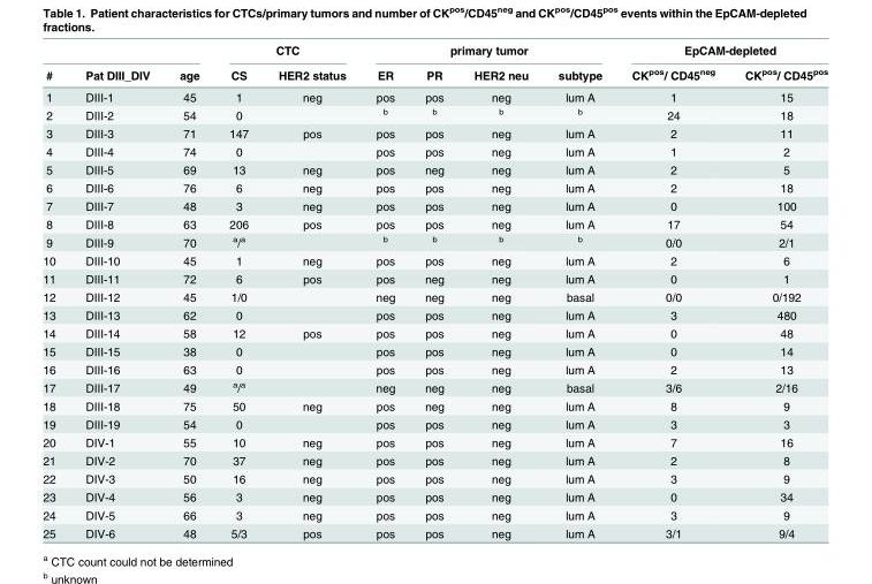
<table><thead><tr><td rowspan="2">#</td><td rowspan="2">Pat DIII_DIV</td><td rowspan="2">age</td><td colspan="2">CTC</td><td colspan="4">primary tumor</td><td colspan="2">EpCAM-depleted</td></tr><tr><td>CS</td><td>HER2 status</td><td>ER</td><td>PR</td><td>HER2 neu</td><td>subtype</td><td>CK<sup>pos</sup>/ CD45<sup>neg</sup></td><td>CK<sup>pos</sup>/ CD45<sup>pos</sup></td></tr></thead><tbody><tr><td>1</td><td>DIII-1</td><td>45</td><td>1</td><td>neg</td><td>pos</td><td>pos</td><td>neg</td><td>lum A</td><td>1</td><td>15</td></tr><tr><td>2</td><td>DIII-2</td><td>54</td><td>0</td><td></td><td><sup>b</sup></td><td><sup>b</sup></td><td><sup>b</sup></td><td><sup>b</sup></td><td>24</td><td>18</td></tr><tr><td>3</td><td>DIII-3</td><td>71</td><td>147</td><td>pos</td><td>pos</td><td>pos</td><td>neg</td><td>lum A</td><td>2</td><td>11</td></tr><tr><td>4</td><td>DIII-4</td><td>74</td><td>0</td><td></td><td>pos</td><td>pos</td><td>neg</td><td>lum A</td><td>1</td><td>2</td></tr><tr><td>5</td><td>DIII-5</td><td>69</td><td>13</td><td>neg</td><td>pos</td><td>neg</td><td>neg</td><td>lum A</td><td>2</td><td>5</td></tr><tr><td>6</td><td>DIII-6</td><td>76</td><td>6</td><td>neg</td><td>pos</td><td>pos</td><td>neg</td><td>lum A</td><td>2</td><td>18</td></tr><tr><td>7</td><td>DIII-7</td><td>48</td><td>3</td><td>neg</td><td>pos</td><td>pos</td><td>neg</td><td>lum A</td><td>0</td><td>100</td></tr><tr><td>8</td><td>DIII-8</td><td>63</td><td>206</td><td>pos</td><td>pos</td><td>pos</td><td>neg</td><td>lum A</td><td>17</td><td>54</td></tr><tr><td>9</td><td>DIII-9</td><td>70</td><td><sup>a</sup>/<sup>a</sup></td><td></td><td><sup>b</sup></td><td><sup>b</sup></td><td><sup>b</sup></td><td><sup>b</sup></td><td>0/0</td><td>2/1</td></tr><tr><td>10</td><td>DIII-10</td><td>45</td><td>1</td><td>neg</td><td>pos</td><td>pos</td><td>neg</td><td>lum A</td><td>2</td><td>6</td></tr><tr><td>11</td><td>DIII-11</td><td>72</td><td>6</td><td>pos</td><td>pos</td><td>neg</td><td>neg</td><td>lum A</td><td>0</td><td>1</td></tr><tr><td>12</td><td>DIII-12</td><td>45</td><td>1/0</td><td></td><td>neg</td><td>neg</td><td>neg</td><td>basal</td><td>0/0</td><td>0/192</td></tr><tr><td>13</td><td>DIII-13</td><td>62</td><td>0</td><td></td><td>pos</td><td>pos</td><td>neg</td><td>lum A</td><td>3</td><td>480</td></tr><tr><td>14</td><td>DIII-14</td><td>58</td><td>12</td><td>pos</td><td>pos</td><td>pos</td><td>neg</td><td>lum A</td><td>0</td><td>48</td></tr><tr><td>15</td><td>DIII-15</td><td>38</td><td>0</td><td></td><td>pos</td><td>pos</td><td>neg</td><td>lum A</td><td>0</td><td>14</td></tr><tr><td>16</td><td>DIII-16</td><td>63</td><td>0</td><td></td><td>pos</td><td>pos</td><td>neg</td><td>lum A</td><td>2</td><td>13</td></tr><tr><td>17</td><td>DIII-17</td><td>49</td><td><sup>a</sup>/<sup>a</sup></td><td></td><td>neg</td><td>neg</td><td>neg</td><td>basal</td><td>3/6</td><td>2/16</td></tr><tr><td>18</td><td>DIII-18</td><td>75</td><td>50</td><td>neg</td><td>pos</td><td>neg</td><td>neg</td><td>lum A</td><td>8</td><td>9</td></tr><tr><td>19</td><td>DIII-19</td><td>54</td><td>0</td><td></td><td>pos</td><td>pos</td><td>neg</td><td>lum A</td><td>3</td><td>3</td></tr><tr><td>20</td><td>DIV-1</td><td>55</td><td>10</td><td>neg</td><td>pos</td><td>pos</td><td>neg</td><td>lum A</td><td>7</td><td>16</td></tr><tr><td>21</td><td>DIV-2</td><td>70</td><td>37</td><td>neg</td><td>pos</td><td>pos</td><td>neg</td><td>lum A</td><td>2</td><td>8</td></tr><tr><td>22</td><td>DIV-3</td><td>50</td><td>16</td><td>neg</td><td>pos</td><td>pos</td><td>neg</td><td>lum A</td><td>3</td><td>9</td></tr><tr><td>23</td><td>DIV-4</td><td>56</td><td>3</td><td>neg</td><td>pos</td><td>pos</td><td>neg</td><td>lum A</td><td>0</td><td>34</td></tr><tr><td>24</td><td>DIV-5</td><td>66</td><td>3</td><td>neg</td><td>pos</td><td>pos</td><td>neg</td><td>lum A</td><td>3</td><td>9</td></tr><tr><td>25</td><td>DIV-6</td><td>48</td><td>5/3</td><td>pos</td><td>pos</td><td>pos</td><td>neg</td><td>lum A</td><td>3/1</td><td>9/4</td></tr></tbody></table>